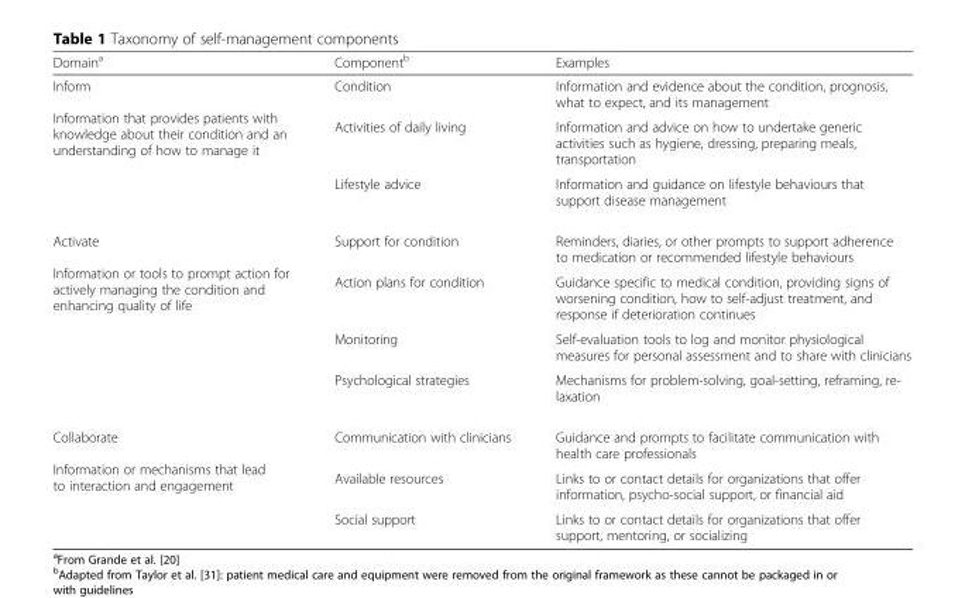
<table><thead><tr><td>Domain<sup>a</sup></td><td>Component<sup>b</sup></td><td>Examples</td></tr></thead><tbody><tr><td rowspan="3">Inform Information that provides patients with knowledge about their condition and an understanding of how to manage it</td><td>Condition</td><td>Information and evidence about the condition, prognosis, what to expect, and its management</td></tr><tr><td>Activities of daily living</td><td>Information and advice on how to undertake generic activities such as hygiene, dressing, preparing meals, transportation</td></tr><tr><td>Lifestyle advice</td><td>Information and guidance on lifestyle behaviours that support disease management</td></tr><tr><td rowspan="4">Activate Information or tools to prompt action for actively managing the condition and enhancing quality of life</td><td>Support for condition</td><td>Reminders, diaries, or other prompts to support adherence to medication or recommended lifestyle behaviours</td></tr><tr><td>Action plans for condition</td><td>Guidance specific to medical condition, providing signs of worsening condition, how to self-adjust treatment, and response if deterioration continues</td></tr><tr><td>Monitoring</td><td>Self-evaluation tools to log and monitor physiological measures for personal assessment and to share with clinicians</td></tr><tr><td>Psychological strategies</td><td>Mechanisms for problem-solving, goal-setting, reframing, re- laxation</td></tr><tr><td rowspan="3">Collaborate Information or mechanisms that lead to interaction and engagement</td><td>Communication with clinicians</td><td>Guidance and prompts to facilitate communication with health care professionals</td></tr><tr><td>Available resources</td><td>Links to or contact details for organizations that offer information, psycho-social support, or financial aid</td></tr><tr><td>Social support</td><td>Links to or contact details for organizations that offer support, mentoring, or socializing</td></tr></tbody></table>